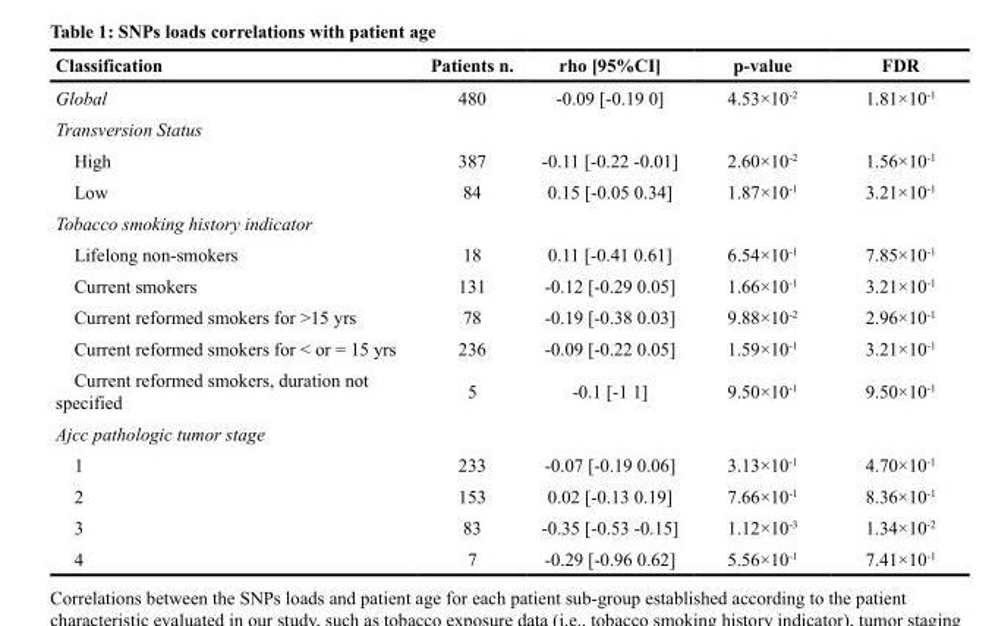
<table><thead><tr><td>Classification</td><td>Patients n.</td><td>rho [95%CI]</td><td>p-value</td><td>FDR</td></tr></thead><tbody><tr><td>Global</td><td>480</td><td>-0.09 [-0.19 0]</td><td>4.53×10<sup>-2</sup></td><td>1.81×10<sup>-1</sup></td></tr><tr><td colspan="5">Transversion Status</td></tr><tr><td>High</td><td>387</td><td>-0.11 [-0.22 -0.01]</td><td>2.60×10<sup>-2</sup></td><td>1.56×10<sup>-1</sup></td></tr><tr><td>Low</td><td>84</td><td>0.15 [-0.05 0.34]</td><td>1.87×10<sup>-1</sup></td><td>3.21×10<sup>-1</sup></td></tr><tr><td colspan="5">Tobacco smoking history indicator</td></tr><tr><td>Lifelong non-smokers</td><td>18</td><td>0.11 [-0.41 0.61]</td><td>6.54×10<sup>-1</sup></td><td>7.85×10<sup>-1</sup></td></tr><tr><td>Current smokers</td><td>131</td><td>-0.12 [-0.29 0.05]</td><td>1.66×10<sup>-1</sup></td><td>3.21×10<sup>-1</sup></td></tr><tr><td>Current reformed smokers for &gt;15 yrs</td><td>78</td><td>-0.19 [-0.38 0.03]</td><td>9.88×10<sup>-2</sup></td><td>2.96×10<sup>-1</sup></td></tr><tr><td>Current reformed smokers for &lt; or = 15 yrs</td><td>236</td><td>-0.09 [-0.22 0.05]</td><td>1.59×10<sup>-1</sup></td><td>3.21×10<sup>-1</sup></td></tr><tr><td>Current reformed smokers, duration not specified</td><td>5</td><td>-0.1 [-1 1]</td><td>9.50×10<sup>-1</sup></td><td>9.50×10<sup>-1</sup></td></tr><tr><td colspan="5">Ajcc pathologic tumor stage</td></tr><tr><td>1</td><td>233</td><td>-0.07 [-0.19 0.06]</td><td>3.13×10<sup>-1</sup></td><td>4.70×10<sup>-1</sup></td></tr><tr><td>2</td><td>153</td><td>0.02 [-0.13 0.19]</td><td>7.66×10<sup>-1</sup></td><td>8.36×10<sup>-1</sup></td></tr><tr><td>3</td><td>83</td><td>-0.35 [-0.53 -0.15]</td><td>1.12×10<sup>-3</sup></td><td>1.34×10<sup>-2</sup></td></tr><tr><td>4</td><td>7</td><td>-0.29 [-0.96 0.62]</td><td>5.56×10<sup>-1</sup></td><td>7.41×10<sup>-1</sup></td></tr></tbody></table>